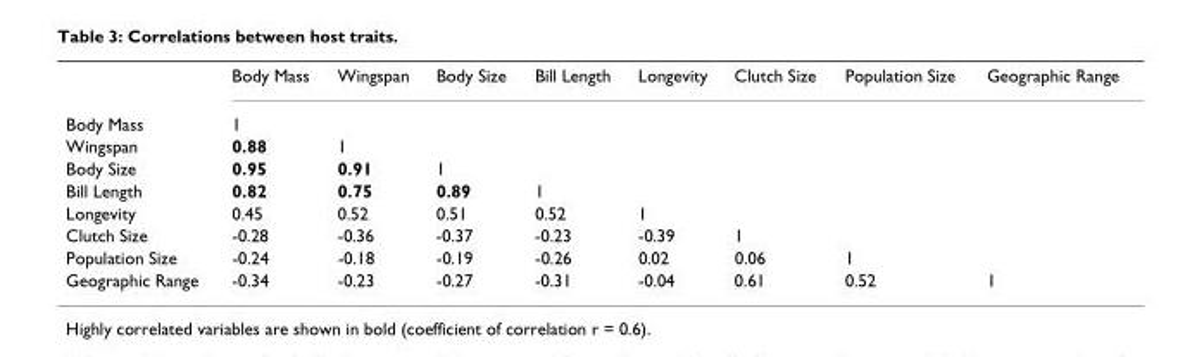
<table><thead><tr><td></td><td>Body Mass</td><td>Wingspan</td><td>Body Size</td><td>Bill Length</td><td>Longevity</td><td>Clutch Size</td><td>Population Size</td><td>Geographic Range</td></tr></thead><tbody><tr><td>Body Mass</td><td>1</td><td></td><td></td><td></td><td></td><td></td><td></td><td></td></tr><tr><td>Wingspan</td><td>0.88</td><td>1</td><td></td><td></td><td></td><td></td><td></td><td></td></tr><tr><td>Body Size</td><td>0.95</td><td>0.91</td><td>1</td><td></td><td></td><td></td><td></td><td></td></tr><tr><td>Bill Length</td><td>0.82</td><td>0.75</td><td>0.89</td><td>1</td><td></td><td></td><td></td><td></td></tr><tr><td>Longevity</td><td>0.45</td><td>0.52</td><td>0.51</td><td>0.52</td><td>1</td><td></td><td></td><td></td></tr><tr><td>Clutch Size</td><td>-0.28</td><td>-0.36</td><td>-0.37</td><td>-0.23</td><td>-0.39</td><td>1</td><td></td><td></td></tr><tr><td>Population Size</td><td>-0.24</td><td>-0.18</td><td>-0.19</td><td>-0.26</td><td>0.02</td><td>0.06</td><td>1</td><td></td></tr><tr><td>Geographic Range</td><td>-0.34</td><td>-0.23</td><td>-0.27</td><td>-0.31</td><td>-0.04</td><td>0.61</td><td>0.52</td><td>1</td></tr></tbody></table>